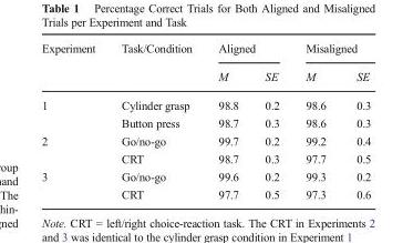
<table><thead><tr><td rowspan="2">Experiment</td><td rowspan="2">Task/Condition</td><td colspan="2">Aligned</td><td colspan="2">Misaligned</td></tr><tr><td>M</td><td>SE</td><td>M</td><td>SE</td></tr></thead><tbody><tr><td rowspan="2">1</td><td>Cylinder grasp</td><td>98.8</td><td>0.2</td><td>98.6</td><td>0.3</td></tr><tr><td>Button press</td><td>98.7</td><td>0.3</td><td>98.6</td><td>0.3</td></tr><tr><td rowspan="2">2</td><td>Go/no-go</td><td>99.7</td><td>0.2</td><td>99.2</td><td>0.4</td></tr><tr><td>CRT</td><td>98.7</td><td>0.3</td><td>97.7</td><td>0.5</td></tr><tr><td rowspan="2">3</td><td>Go/no-go</td><td>99.6</td><td>0.2</td><td>99.3</td><td>0.2</td></tr><tr><td>CRT</td><td>97.7</td><td>0.5</td><td>97.3</td><td>0.6</td></tr></tbody></table>